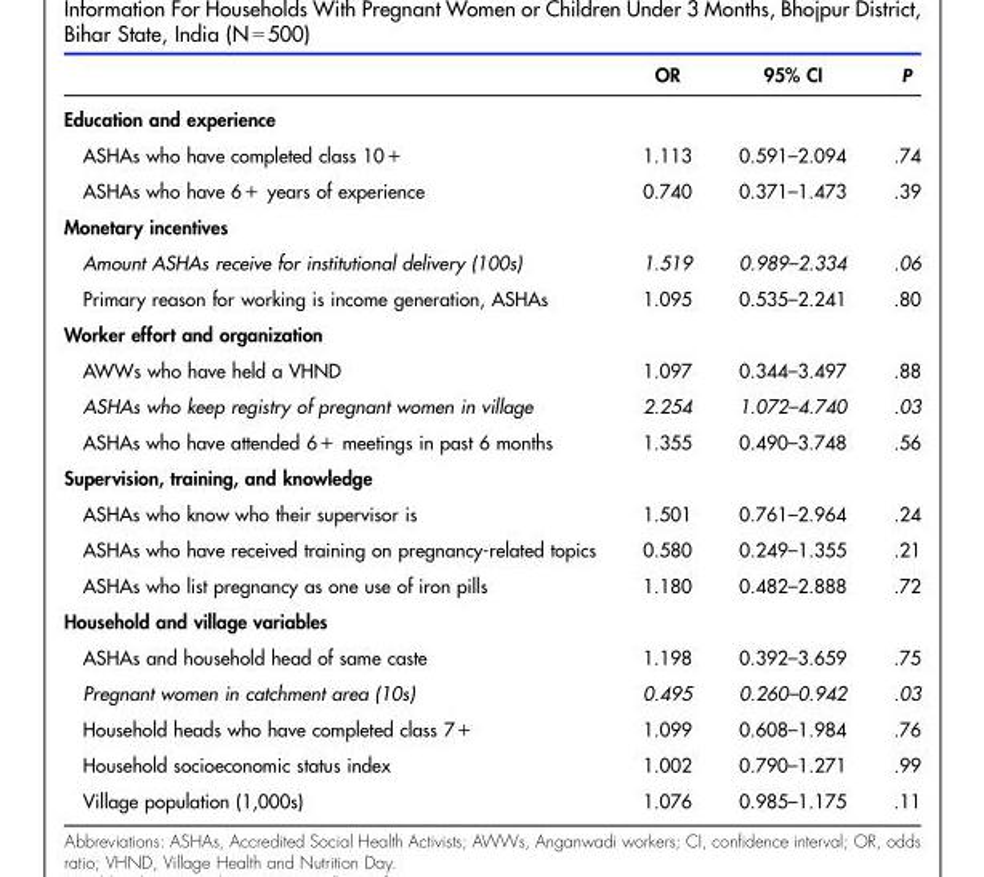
<table><thead><tr><td></td><td>OR</td><td>95% CI</td><td>P</td></tr></thead><tbody><tr><td colspan="4">Education and experience</td></tr><tr><td>ASHAs who have completed class 10+</td><td>1.113</td><td>0.591–2.094</td><td>.74</td></tr><tr><td>ASHAs who have 6+ years of experience</td><td>0.740</td><td>0.371–1.473</td><td>.39</td></tr><tr><td colspan="4">Monetary incentives</td></tr><tr><td>Amount ASHAs receive for institutional delivery (100s)</td><td>1.519</td><td>0.989–2.334</td><td>.06</td></tr><tr><td>Primary reason for working is income generation, ASHAs</td><td>1.095</td><td>0.535–2.241</td><td>.80</td></tr><tr><td colspan="4">Worker effort and organization</td></tr><tr><td>AWWs who have held a VHND</td><td>1.097</td><td>0.344–3.497</td><td>.88</td></tr><tr><td>ASHAs who keep registry of pregnant women in village</td><td>2.254</td><td>1.072–4.740</td><td>.03</td></tr><tr><td>ASHAs who have attended 6+ meetings in past 6 months</td><td>1.355</td><td>0.490–3.748</td><td>.56</td></tr><tr><td colspan="4">Supervision, training, and knowledge</td></tr><tr><td>ASHAs who know who their supervisor is</td><td>1.501</td><td>0.761–2.964</td><td>.24</td></tr><tr><td>ASHAs who have received training on pregnancy-related topics</td><td>0.580</td><td>0.249–1.355</td><td>.21</td></tr><tr><td>ASHAs who list pregnancy as one use of iron pills</td><td>1.180</td><td>0.482–2.888</td><td>.72</td></tr><tr><td colspan="4">Household and village variables</td></tr><tr><td>ASHAs and household head of same caste</td><td>1.198</td><td>0.392–3.659</td><td>.75</td></tr><tr><td>Pregnant women in catchment area (10s)</td><td>0.495</td><td>0.260–0.942</td><td>.03</td></tr><tr><td>Household heads who have completed class 7+</td><td>1.099</td><td>0.608–1.984</td><td>.76</td></tr><tr><td>Household socioeconomic status index</td><td>1.002</td><td>0.790–1.271</td><td>.99</td></tr><tr><td>Village population (1,000s)</td><td>1.076</td><td>0.985–1.175</td><td>.11</td></tr></tbody></table>